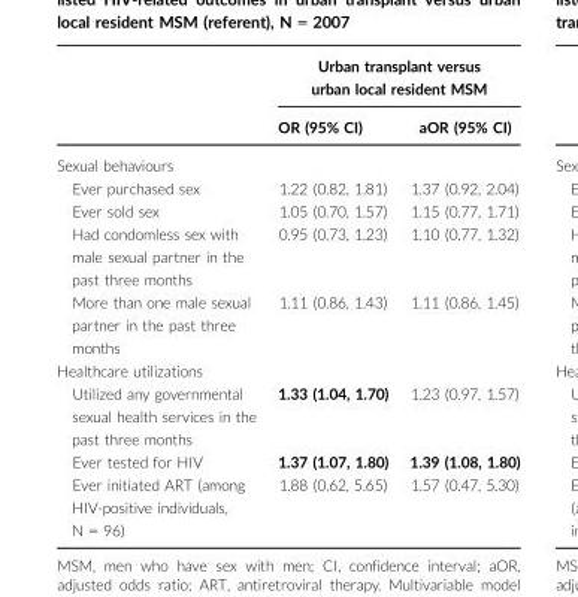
<table><thead><tr><td rowspan="2"></td><td colspan="2">Urban transplant versus urban local resident MSM</td></tr><tr><td>OR (95% CI)</td><td>aOR (95% CI)</td></tr></thead><tbody><tr><td colspan="3">Sexual behaviours</td></tr><tr><td>Ever purchased sex</td><td>1.22 (0.82, 1.81)</td><td>1.37 (0.92, 2.04)</td></tr><tr><td>Ever sold sex</td><td>1.05 (0.70, 1.57)</td><td>1.15 (0.77, 1.71)</td></tr><tr><td>Had condomless sex with male sexual partner in the past three months</td><td>0.95 (0.73, 1.23)</td><td>1.10 (0.77, 1.32)</td></tr><tr><td>More than one male sexual partner in the past three months</td><td>1.11 (0.86, 1.43)</td><td>1.11 (0.86, 1.45)</td></tr><tr><td colspan="3">Healthcare utilizations</td></tr><tr><td>Utilized any governmental sexual health services in the past three months</td><td>1.33 (1.04, 1.70)</td><td>1.23 (0.97, 1.57)</td></tr><tr><td>Ever tested for HIV</td><td>1.37 (1.07, 1.80)</td><td>1.39 (1.08, 1.80)</td></tr><tr><td>Ever initiated ART (among HIV-positive individuals, N = 96)</td><td>1.88 (0.62, 5.65)</td><td>1.57 (0.47, 5.30)</td></tr></tbody></table>